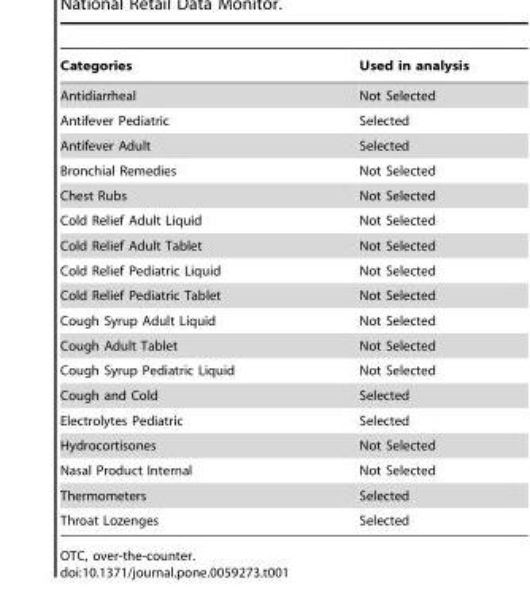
<table><thead><tr><td>Categories</td><td>Used in analysis</td></tr></thead><tbody><tr><td>Antidiarrheal</td><td>Not Selected</td></tr><tr><td>Antifever Pediatric</td><td>Selected</td></tr><tr><td>Antifever Adult</td><td>Selected</td></tr><tr><td>Bronchial Remedies</td><td>Not Selected</td></tr><tr><td>Chest Rubs</td><td>Not Selected</td></tr><tr><td>Cold Relief Adult Liquid</td><td>Not Selected</td></tr><tr><td>Cold Relief Adult Tablet</td><td>Not Selected</td></tr><tr><td>Cold Relief Pediatric Liquid</td><td>Not Selected</td></tr><tr><td>Cold Relief Pediatric Tablet</td><td>Not Selected</td></tr><tr><td>Cough Syrup Adult Liquid</td><td>Not Selected</td></tr><tr><td>Cough Adult Tablet</td><td>Not Selected</td></tr><tr><td>Cough Syrup Pediatric Liquid</td><td>Not Selected</td></tr><tr><td>Cough and Cold</td><td>Selected</td></tr><tr><td>Electrolytes Pediatric</td><td>Selected</td></tr><tr><td>Hydrocortisones</td><td>Not Selected</td></tr><tr><td>Nasal Product Internal</td><td>Not Selected</td></tr><tr><td>Thermometers</td><td>Selected</td></tr><tr><td>Throat Lozenges</td><td>Selected</td></tr></tbody></table>